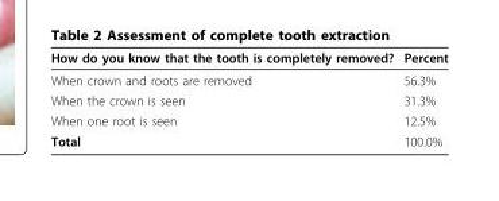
<table><thead><tr><td>How do you know that the tooth is completely removed?</td><td>Percent</td></tr></thead><tbody><tr><td>When crown and roots are removed</td><td>56.3%</td></tr><tr><td>When the crown is seen</td><td>31.3%</td></tr><tr><td>When one root is seen</td><td>12.5%</td></tr><tr><td>Total</td><td>100.0%</td></tr></tbody></table>